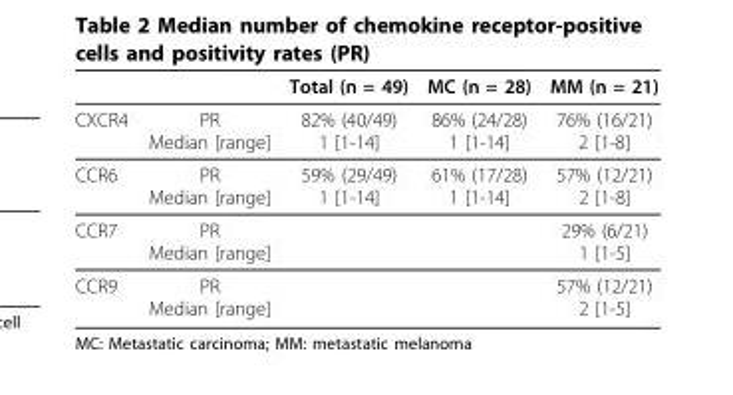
<table><thead><tr><td></td><td></td><td>Total (n = 49)</td><td>MC (n = 28)</td><td>MM (n = 21)</td></tr></thead><tbody><tr><td>CXCR4</td><td>PR Median [range]</td><td>82% (40/49) 1 [1-14]</td><td>86% (24/28) 1 [1-14]</td><td>76% (16/21) 2 [1-8]</td></tr><tr><td>CCR6</td><td>PR Median [range]</td><td>59% (29/49) 1 [1-14]</td><td>61% (17/28) 1 [1-14]</td><td>57% (12/21) 2 [1-8]</td></tr><tr><td>CCR7</td><td>PR Median [range]</td><td></td><td></td><td>29% (6/21) 1 [1-5]</td></tr><tr><td>CCR9</td><td>PR Median [range]</td><td></td><td></td><td>57% (12/21) 2 [1-5]</td></tr></tbody></table>